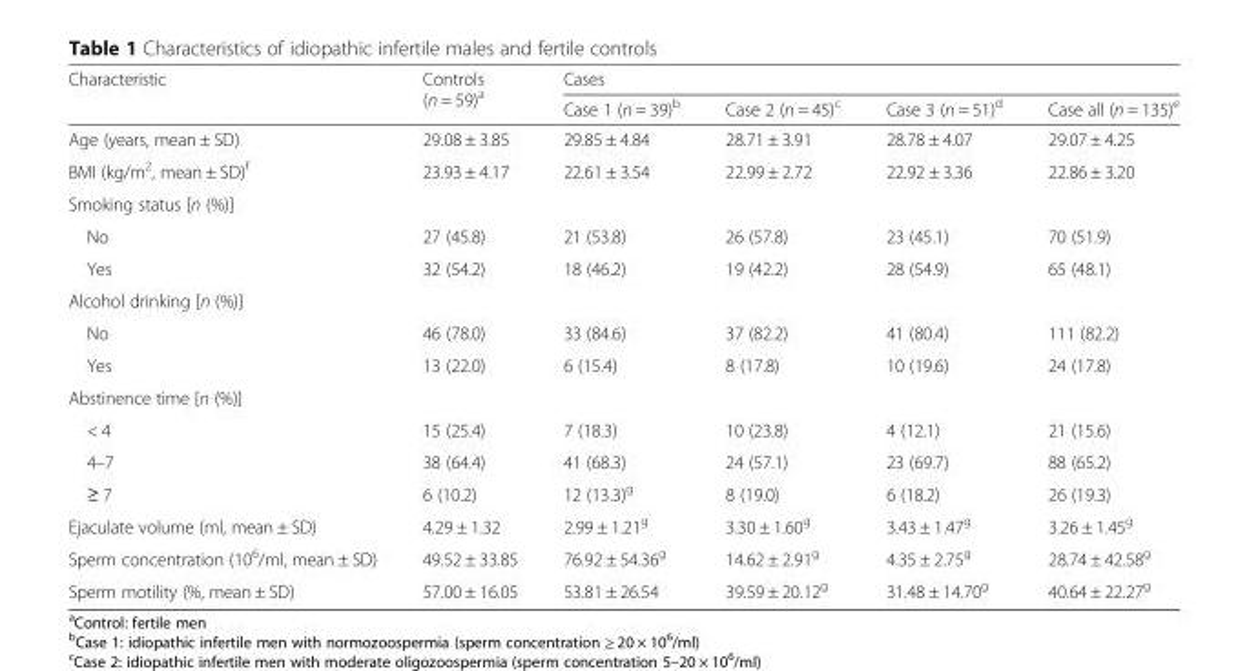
<table><thead><tr><td rowspan="2">Characteristic</td><td rowspan="2">Controls (n = 59)<sup>a</sup></td><td colspan="4">Cases</td></tr><tr><td>Case 1 (n = 39)<sup>b</sup></td><td>Case 2 (n = 45)<sup>c</sup></td><td>Case 3 (n = 51)<sup>d</sup></td><td>Case all (n = 135)<sup>e</sup></td></tr></thead><tbody><tr><td>Age (years, mean ± SD)</td><td>29.08 ± 3.85</td><td>29.85 ± 4.84</td><td>28.71 ± 3.91</td><td>28.78 ± 4.07</td><td>29.07 ± 4.25</td></tr><tr><td>BMI (kg/m<sup>2</sup>, mean ± SD)<sup>f</sup></td><td>23.93 ± 4.17</td><td>22.61 ± 3.54</td><td>22.99 ± 2.72</td><td>22.92 ± 3.36</td><td>22.86 ± 3.20</td></tr><tr><td colspan="6">Smoking status [n (%)]</td></tr><tr><td>No</td><td>27 (45.8)</td><td>21 (53.8)</td><td>26 (57.8)</td><td>23 (45.1)</td><td>70 (51.9)</td></tr><tr><td>Yes</td><td>32 (54.2)</td><td>18 (46.2)</td><td>19 (42.2)</td><td>28 (54.9)</td><td>65 (48.1)</td></tr><tr><td colspan="6">Alcohol drinking [n (%)]</td></tr><tr><td>No</td><td>46 (78.0)</td><td>33 (84.6)</td><td>37 (82.2)</td><td>41 (80.4)</td><td>111 (82.2)</td></tr><tr><td>Yes</td><td>13 (22.0)</td><td>6 (15.4)</td><td>8 (17.8)</td><td>10 (19.6)</td><td>24 (17.8)</td></tr><tr><td colspan="6">Abstinence time [n (%)]</td></tr><tr><td>&lt; 4</td><td>15 (25.4)</td><td>7 (18.3)</td><td>10 (23.8)</td><td>4 (12.1)</td><td>21 (15.6)</td></tr><tr><td>4–7</td><td>38 (64.4)</td><td>41 (68.3)</td><td>24 (57.1)</td><td>23 (69.7)</td><td>88 (65.2)</td></tr><tr><td>≥ 7</td><td>6 (10.2)</td><td>12 (13.3)<sup>g</sup></td><td>8 (19.0)</td><td>6 (18.2)</td><td>26 (19.3)</td></tr><tr><td>Ejaculate volume (ml, mean ± SD)</td><td>4.29 ± 1.32</td><td>2.99 ± 1.21<sup>g</sup></td><td>3.30 ± 1.60<sup>g</sup></td><td>3.43 ± 1.47<sup>g</sup></td><td>3.26 ± 1.45<sup>g</sup></td></tr><tr><td>Sperm concentration (10<sup>6</sup>/ml, mean ± SD)</td><td>49.52 ± 33.85</td><td>76.92 ± 54.36<sup>g</sup></td><td>14.62 ± 2.91<sup>g</sup></td><td>4.35 ± 2.75<sup>g</sup></td><td>28.74 ± 42.58<sup>g</sup></td></tr><tr><td>Sperm motility (%, mean ± SD)</td><td>57.00 ± 16.05</td><td>53.81 ± 26.54</td><td>39.59 ± 20.12<sup>g</sup></td><td>31.48 ± 14.70<sup>g</sup></td><td>40.64 ± 22.27<sup>g</sup></td></tr></tbody></table>